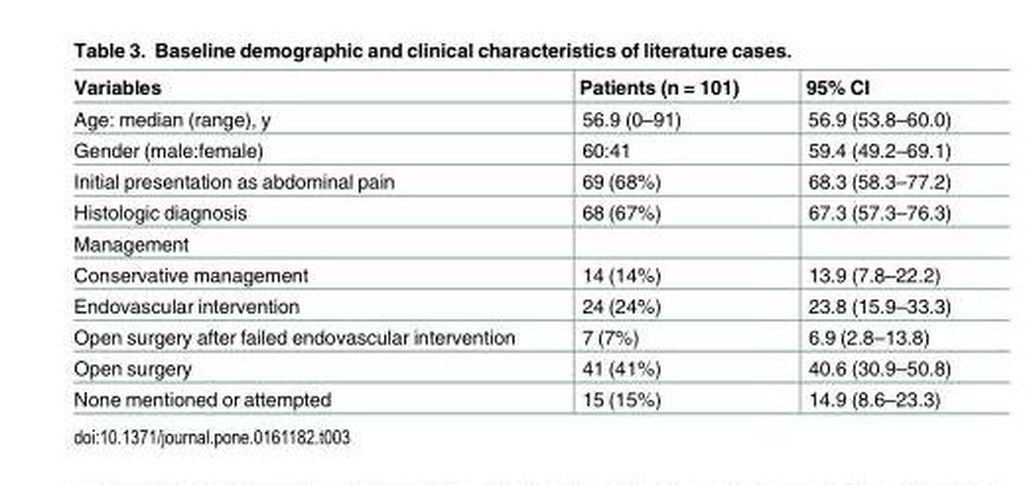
<table><thead><tr><td>Variables</td><td>Patients (n = 101)</td><td>95% CI</td></tr></thead><tbody><tr><td>Age: median (range), y</td><td>56.9 (0–91)</td><td>56.9 (53.8–60.0)</td></tr><tr><td>Gender (male:female)</td><td>60:41</td><td>59.4 (49.2–69.1)</td></tr><tr><td>Initial presentation as abdominal pain</td><td>69 (68%)</td><td>68.3 (58.3–77.2)</td></tr><tr><td>Histologic diagnosis</td><td>68 (67%)</td><td>67.3 (57.3–76.3)</td></tr><tr><td colspan="3">Management</td></tr><tr><td>Conservative management</td><td>14 (14%)</td><td>13.9 (7.8–22.2)</td></tr><tr><td>Endovascular intervention</td><td>24 (24%)</td><td>23.8 (15.9–33.3)</td></tr><tr><td>Open surgery after failed endovascular intervention</td><td>7 (7%)</td><td>6.9 (2.8–13.8)</td></tr><tr><td>Open surgery</td><td>41 (41%)</td><td>40.6 (30.9–50.8)</td></tr><tr><td>None mentioned or attempted</td><td>15 (15%)</td><td>14.9 (8.6–23.3)</td></tr></tbody></table>